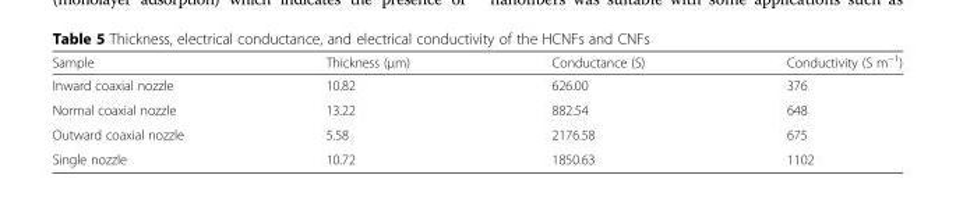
<table><thead><tr><td>Sample</td><td>Thickness (μm)</td><td>Conductance (S)</td><td>Conductivity (S m<sup>−1</sup>)</td></tr></thead><tbody><tr><td>Inward coaxial nozzle</td><td>10.82</td><td>626.00</td><td>376</td></tr><tr><td>Normal coaxial nozzle</td><td>13.22</td><td>882.54</td><td>648</td></tr><tr><td>Outward coaxial nozzle</td><td>5.58</td><td>2176.58</td><td>675</td></tr><tr><td>Single nozzle</td><td>10.72</td><td>1850.63</td><td>1102</td></tr></tbody></table>